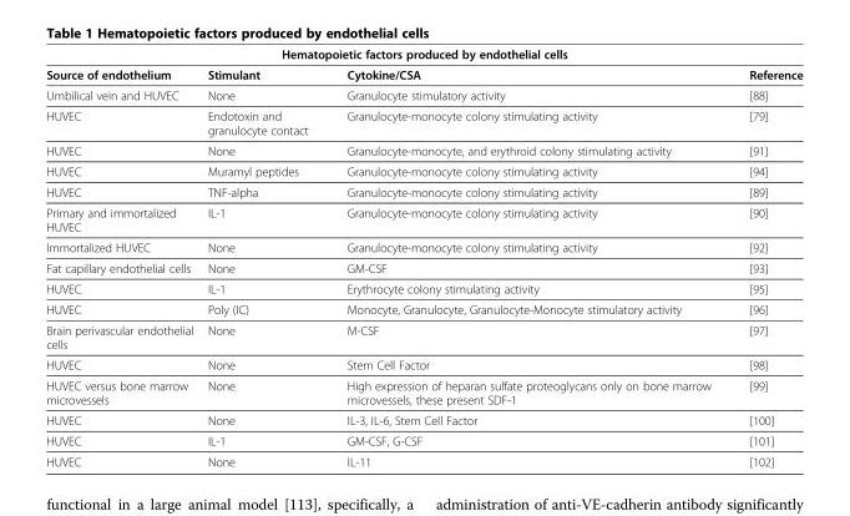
<table><thead><tr><td colspan="4">Hematopoietic factors produced by endothelial cells</td></tr><tr><td>Source of endothelium</td><td>Stimulant</td><td>Cytokine/CSA</td><td>Reference</td></tr></thead><tbody><tr><td>Umbilical vein and HUVEC</td><td>None</td><td>Granulocyte stimulatory activity</td><td>[88]</td></tr><tr><td>HUVEC</td><td>Endotoxin and granulocyte contact</td><td>Granulocyte-monocyte colony stimulating activity</td><td>[79]</td></tr><tr><td>HUVEC</td><td>None</td><td>Granulocyte-monocyte, and erythroid colony stimulating activity</td><td>[91]</td></tr><tr><td>HUVEC</td><td>Muramyl peptides</td><td>Granulocyte-monocyte colony stimulating activity</td><td>[94]</td></tr><tr><td>HUVEC</td><td>TNF-alpha</td><td>Granulocyte-monocyte colony stimulating activity</td><td>[89]</td></tr><tr><td>Primary and immortalized HUVEC</td><td>IL-1</td><td>Granulocyte-monocyte colony stimulating activity</td><td>[90]</td></tr><tr><td>Immortalized HUVEC</td><td>None</td><td>Granulocyte-monocyte colony stimulating activity</td><td>[92]</td></tr><tr><td>Fat capillary endothelial cells</td><td>None</td><td>GM-CSF</td><td>[93]</td></tr><tr><td>HUVEC</td><td>IL-1</td><td>Erythrocyte colony stimulating activity</td><td>[95]</td></tr><tr><td>HUVEC</td><td>Poly (IC)</td><td>Monocyte, Granulocyte, Granulocyte-Monocyte stimulatory activity</td><td>[96]</td></tr><tr><td>Brain perivascular endothelial cells</td><td>None</td><td>M-CSF</td><td>[97]</td></tr><tr><td>HUVEC</td><td>None</td><td>Stem Cell Factor</td><td>[98]</td></tr><tr><td>HUVEC versus bone marrow microvessels</td><td>None</td><td>High expression of heparan sulfate proteoglycans only on bone marrow microvessels, these present SDF-1</td><td>[99]</td></tr><tr><td>HUVEC</td><td>None</td><td>IL-3, IL-6, Stem Cell Factor</td><td>[100]</td></tr><tr><td>HUVEC</td><td>IL-1</td><td>GM-CSF, G-CSF</td><td>[101]</td></tr><tr><td>HUVEC</td><td>None</td><td>IL-11</td><td>[102]</td></tr></tbody></table>